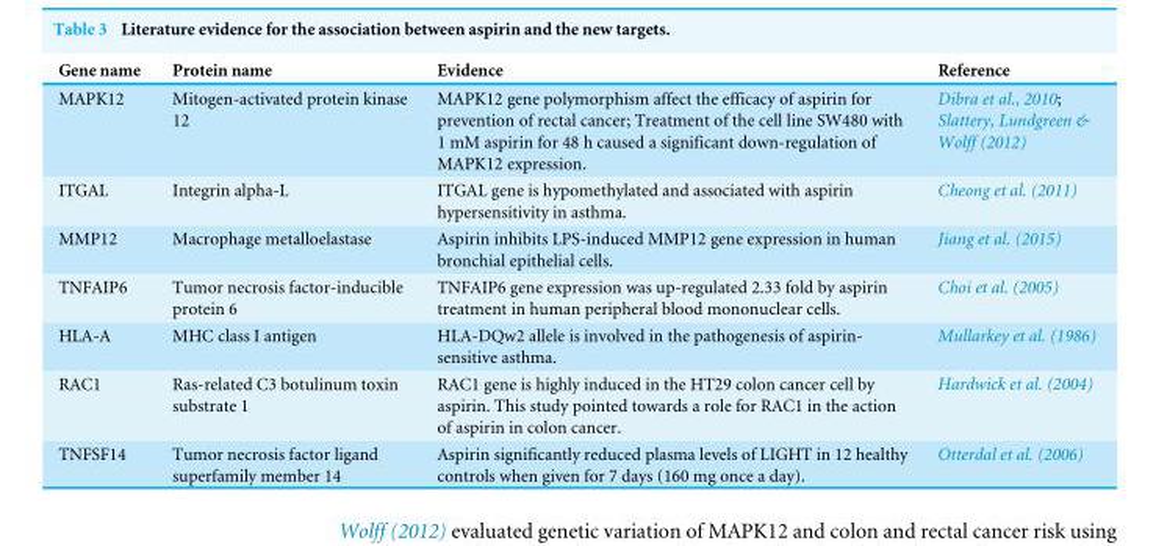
<table><thead><tr><td>Gene name</td><td>Protein name</td><td>Evidence</td><td>Reference</td></tr></thead><tbody><tr><td>MAPK12</td><td>Mitogen-activated protein kinase 12</td><td>MAPK12 gene polymorphism affect the efficacy of aspirin for prevention of rectal cancer; Treatment of the cell line SW480 with 1 mM aspirin for 48 h caused a significant down-regulation of MAPK12 expression.</td><td>Dibra et al., 2010; Slattery, Lundgreen &amp; Wolff (2012)</td></tr><tr><td>ITGAL</td><td>Integrin alpha-L</td><td>ITGAL gene is hypomethylated and associated with aspirin hypersensitivity in asthma.</td><td>Cheong et al. (2011)</td></tr><tr><td>MMP12</td><td>Macrophage metalloelastase</td><td>Aspirin inhibits LPS-induced MMP12 gene expression in human bronchial epithelial cells.</td><td>Jiang et al. (2015)</td></tr><tr><td>TNFAIP6</td><td>Tumor necrosis factor-inducible protein 6</td><td>TNFAIP6 gene expression was up-regulated 2.33 fold by aspirin treatment in human peripheral blood mononuclear cells.</td><td>Choi et al. (2005)</td></tr><tr><td>HLA-A</td><td>MHC class I antigen</td><td>HLA-DQw2 allele is involved in the pathogenesis of aspirin- sensitive asthma.</td><td>Mullarkey et al. (1986)</td></tr><tr><td>RAC1</td><td>Ras-related C3 botulinum toxin substrate 1</td><td>RAC1 gene is highly induced in the HT29 colon cancer cell by aspirin. This study pointed towards a role for RAC1 in the action of aspirin in colon cancer.</td><td>Hardwick et al. (2004)</td></tr><tr><td>TNFSF14</td><td>Tumor necrosis factor ligand superfamily member 14</td><td>Aspirin significantly reduced plasma levels of LIGHT in 12 healthy controls when given for 7 days (160 mg once a day).</td><td>Otterdal et al. (2006)</td></tr></tbody></table>